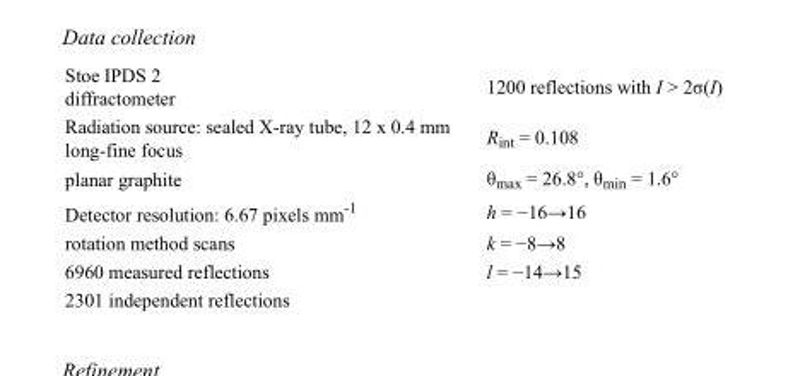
<table><tbody><tr><td>Stoe IPDS 2 diffractometer</td><td>1200 reflections with I &gt; 2σ(I)</td></tr><tr><td>Radiation source: sealed X-ray tube, 12 x 0.4 mm long-fine focus</td><td>R<sub>int</sub> = 0.108</td></tr><tr><td>planar graphite</td><td>θ<sub>max</sub> = 26.8°, θ<sub>min</sub> = 1.6°</td></tr><tr><td>Detector resolution: 6.67 pixels mm<sup>-1</sup></td><td>h = −16→16</td></tr><tr><td>rotation method scans</td><td>k = −8→8</td></tr><tr><td>6960 measured reflections</td><td>l = −14→15</td></tr><tr><td>2301 independent reflections</td><td></td></tr></tbody></table>